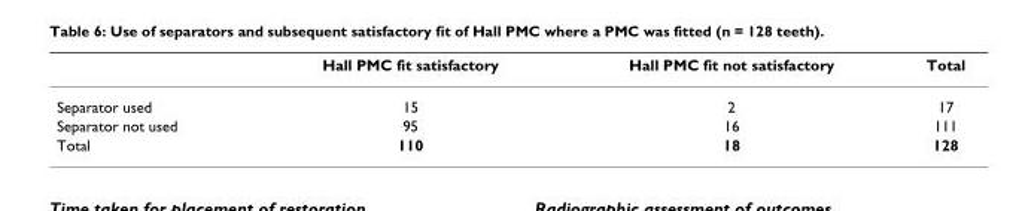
<table><thead><tr><td></td><td>Hall PMC fit satisfactory</td><td>Hall PMC fit not satisfactory</td><td>Total</td></tr></thead><tbody><tr><td>Separator used</td><td>15</td><td>2</td><td>17</td></tr><tr><td>Separator not used</td><td>95</td><td>16</td><td>111</td></tr><tr><td>Total</td><td>110</td><td>18</td><td>128</td></tr></tbody></table>